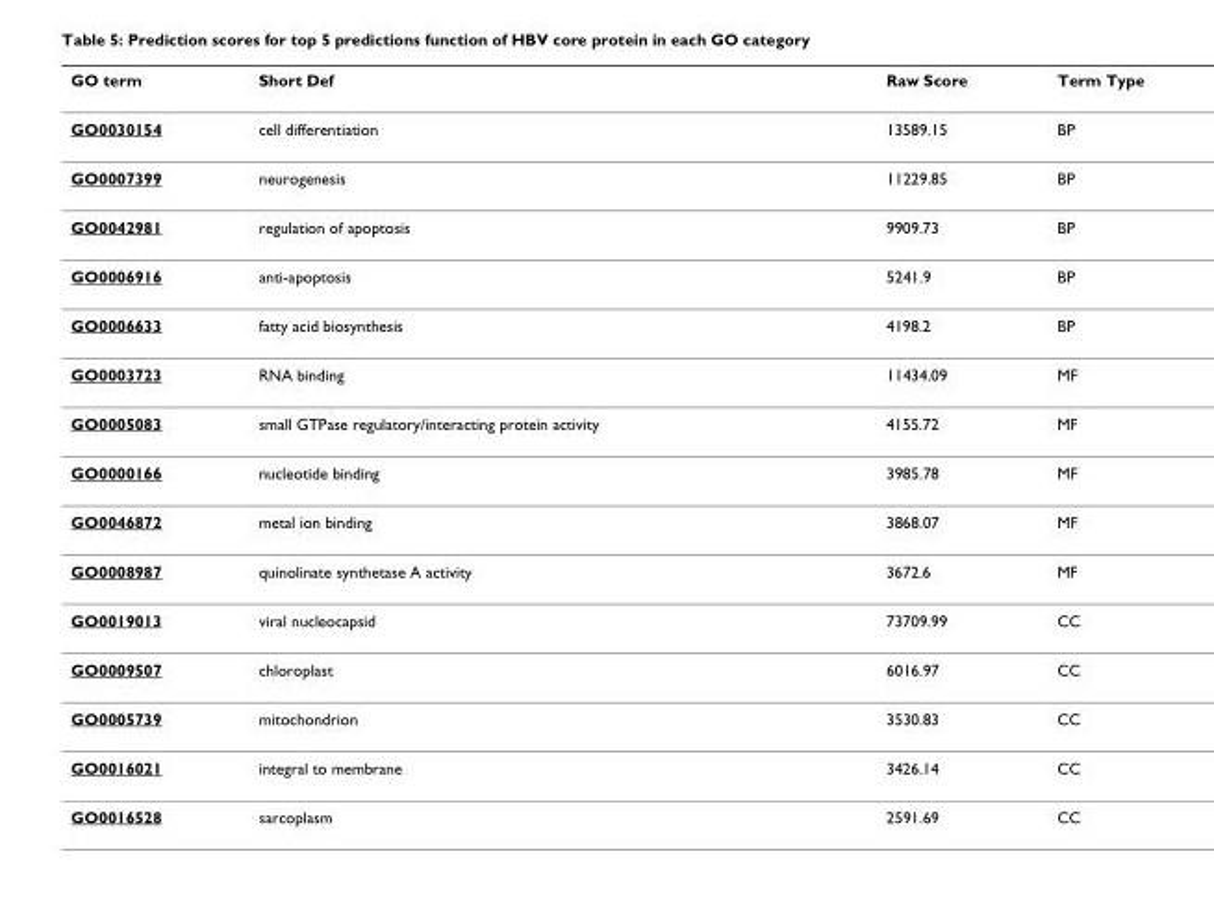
<table><thead><tr><td>GO term</td><td>Short Def</td><td>Raw Score</td><td>Term Type</td></tr></thead><tbody><tr><td>GO0030154</td><td>cell differentiation</td><td>13589.15</td><td>BP</td></tr><tr><td>GO0007399</td><td>neurogenesis</td><td>11229.85</td><td>BP</td></tr><tr><td>GO0042981</td><td>regulation of apoptosis</td><td>9909.73</td><td>BP</td></tr><tr><td>GO0006916</td><td>anti-apoptosis</td><td>5241.9</td><td>BP</td></tr><tr><td>GO0006633</td><td>fatty acid biosynthesis</td><td>4198.2</td><td>BP</td></tr><tr><td>GO0003723</td><td>RNA binding</td><td>11434.09</td><td>MF</td></tr><tr><td>GO0005083</td><td>small GTPase regulatory/interacting protein activity</td><td>4155.72</td><td>MF</td></tr><tr><td>GO0000166</td><td>nucleotide binding</td><td>3985.78</td><td>MF</td></tr><tr><td>GO0046872</td><td>metal ion binding</td><td>3868.07</td><td>MF</td></tr><tr><td>GO0008987</td><td>quinolinate synthetase A activity</td><td>3672.6</td><td>MF</td></tr><tr><td>GO0019013</td><td>viral nucleocapsid</td><td>73709.99</td><td>CC</td></tr><tr><td>GO0009507</td><td>chloroplast</td><td>6016.97</td><td>CC</td></tr><tr><td>GO0005739</td><td>mitochondrion</td><td>3530.83</td><td>CC</td></tr><tr><td>GO0016021</td><td>integral to membrane</td><td>3426.14</td><td>CC</td></tr><tr><td>GO0016528</td><td>sarcoplasm</td><td>2591.69</td><td>CC</td></tr></tbody></table>